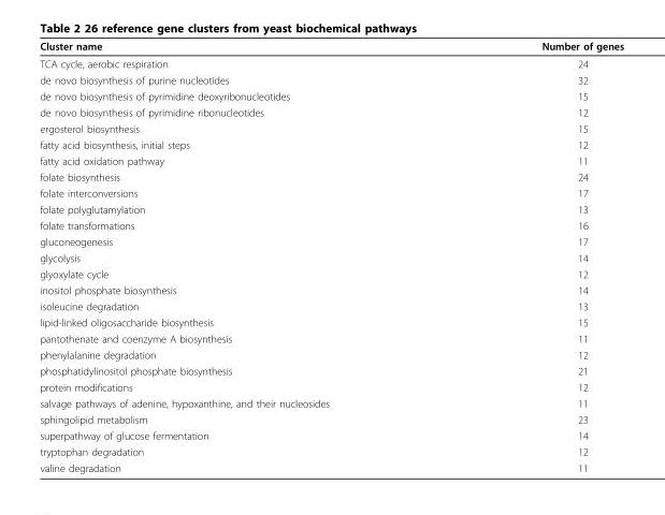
<table><thead><tr><td>Cluster name</td><td>Number of genes</td></tr></thead><tbody><tr><td>TCA cycle, aerobic respiration</td><td>24</td></tr><tr><td>de novo biosynthesis of purine nucleotides</td><td>32</td></tr><tr><td>de novo biosynthesis of pyrimidine deoxyribonucleotides</td><td>15</td></tr><tr><td>de novo biosynthesis of pyrimidine ribonucleotides</td><td>12</td></tr><tr><td>ergosterol biosynthesis</td><td>15</td></tr><tr><td>fatty acid biosynthesis, initial steps</td><td>12</td></tr><tr><td>fatty acid oxidation pathway</td><td>11</td></tr><tr><td>folate biosynthesis</td><td>24</td></tr><tr><td>folate interconversions</td><td>17</td></tr><tr><td>folate polyglutamylation</td><td>13</td></tr><tr><td>folate transformations</td><td>16</td></tr><tr><td>gluconeogenesis</td><td>17</td></tr><tr><td>glycolysis</td><td>14</td></tr><tr><td>glyoxylate cycle</td><td>12</td></tr><tr><td>inositol phosphate biosynthesis</td><td>14</td></tr><tr><td>isoleucine degradation</td><td>13</td></tr><tr><td>lipid-linked oligosaccharide biosynthesis</td><td>15</td></tr><tr><td>pantothenate and coenzyme A biosynthesis</td><td>11</td></tr><tr><td>phenylalanine degradation</td><td>12</td></tr><tr><td>phosphatidylinositol phosphate biosynthesis</td><td>21</td></tr><tr><td>protein modifications</td><td>12</td></tr><tr><td>salvage pathways of adenine, hypoxanthine, and their nucleosides</td><td>11</td></tr><tr><td>sphingolipid metabolism</td><td>23</td></tr><tr><td>superpathway of glucose fermentation</td><td>14</td></tr><tr><td>tryptophan degradation</td><td>12</td></tr><tr><td>valine degradation</td><td>11</td></tr></tbody></table>